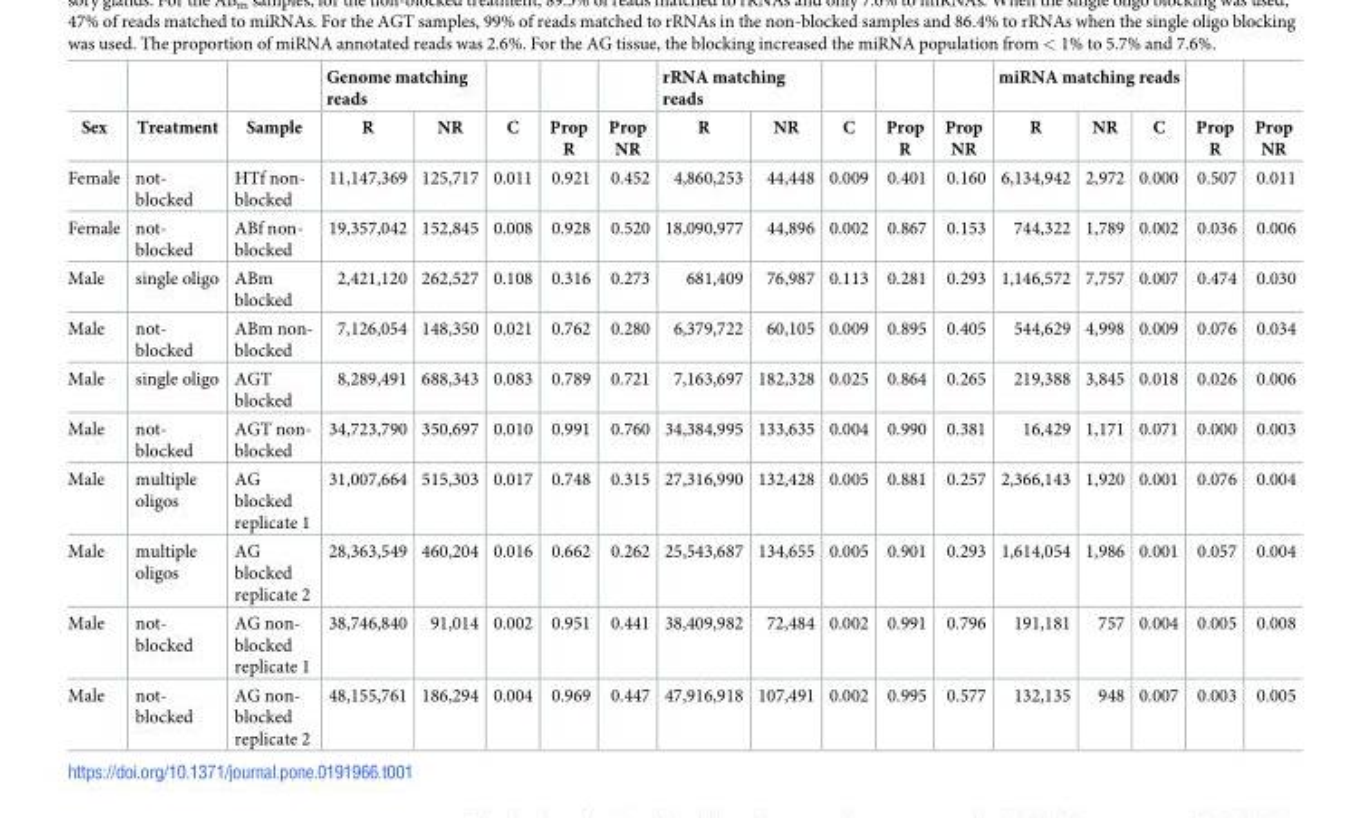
<table><thead><tr><td rowspan="2">Sex</td><td rowspan="2">Treatment</td><td rowspan="2">Sample</td><td colspan="2">Genome matching reads</td><td rowspan="2">C</td><td rowspan="2">Prop R</td><td rowspan="2">Prop NR</td><td colspan="2">rRNA matching reads</td><td rowspan="2">C</td><td rowspan="2">Prop R</td><td rowspan="2">Prop NR</td><td colspan="3">miRNA matching reads</td><td rowspan="2">Prop R</td><td rowspan="2">Prop NR</td></tr><tr><td>R</td><td>NR</td><td>R</td><td>NR</td><td>R</td><td>NR</td><td>C</td></tr></thead><tbody><tr><td>Female</td><td>not- blocked</td><td>HTf non- blocked</td><td>11,147,369</td><td>125,717</td><td>0.011</td><td>0.921</td><td>0.452</td><td>4,860,253</td><td>44,448</td><td>0.009</td><td>0.401</td><td>0.160</td><td>6,134,942</td><td>2,972</td><td>0.000</td><td>0.507</td><td>0.011</td></tr><tr><td>Female</td><td>not- blocked</td><td>ABf non- blocked</td><td>19,357,042</td><td>152,845</td><td>0.008</td><td>0.928</td><td>0.520</td><td>18,090,977</td><td>44,896</td><td>0.002</td><td>0.867</td><td>0.153</td><td>744,322</td><td>1,789</td><td>0.002</td><td>0.036</td><td>0.006</td></tr><tr><td>Male</td><td>single oligo</td><td>ABm blocked</td><td>2,421,120</td><td>262,527</td><td>0.108</td><td>0.316</td><td>0.273</td><td>681,409</td><td>76,987</td><td>0.113</td><td>0.281</td><td>0.293</td><td>1,146,572</td><td>7,757</td><td>0.007</td><td>0.474</td><td>0.030</td></tr><tr><td>Male</td><td>not- blocked</td><td>ABm non- blocked</td><td>7,126,054</td><td>148,350</td><td>0.021</td><td>0.762</td><td>0.280</td><td>6,379,722</td><td>60,105</td><td>0.009</td><td>0.895</td><td>0.405</td><td>544,629</td><td>4,998</td><td>0.009</td><td>0.076</td><td>0.034</td></tr><tr><td>Male</td><td>single oligo</td><td>AGT blocked</td><td>8,289,491</td><td>688,343</td><td>0.083</td><td>0.789</td><td>0.721</td><td>7,163,697</td><td>182,328</td><td>0.025</td><td>0.864</td><td>0.265</td><td>219,388</td><td>3,845</td><td>0.018</td><td>0.026</td><td>0.006</td></tr><tr><td>Male</td><td>not- blocked</td><td>AGT non- blocked</td><td>34,723,790</td><td>350,697</td><td>0.010</td><td>0.991</td><td>0.760</td><td>34,384,995</td><td>133,635</td><td>0.004</td><td>0.990</td><td>0.381</td><td>16,429</td><td>1,171</td><td>0.071</td><td>0.000</td><td>0.003</td></tr><tr><td>Male</td><td>multiple oligos</td><td>AG blocked replicate 1</td><td>31,007,664</td><td>515,303</td><td>0.017</td><td>0.748</td><td>0.315</td><td>27,316,990</td><td>132,428</td><td>0.005</td><td>0.881</td><td>0.257</td><td>2,366,143</td><td>1,920</td><td>0.001</td><td>0.076</td><td>0.004</td></tr><tr><td>Male</td><td>multiple oligos</td><td>AG blocked replicate 2</td><td>28,363,549</td><td>460,204</td><td>0.016</td><td>0.662</td><td>0.262</td><td>25,543,687</td><td>134,655</td><td>0.005</td><td>0.901</td><td>0.293</td><td>1,614,054</td><td>1,986</td><td>0.001</td><td>0.057</td><td>0.004</td></tr><tr><td>Male</td><td>not- blocked</td><td>AG non- blocked replicate 1</td><td>38,746,840</td><td>91,014</td><td>0.002</td><td>0.951</td><td>0.441</td><td>38,409,982</td><td>72,484</td><td>0.002</td><td>0.991</td><td>0.796</td><td>191,181</td><td>757</td><td>0.004</td><td>0.005</td><td>0.008</td></tr><tr><td>Male</td><td>not- blocked</td><td>AG non- blocked replicate 2</td><td>48,155,761</td><td>186,294</td><td>0.004</td><td>0.969</td><td>0.447</td><td>47,916,918</td><td>107,491</td><td>0.002</td><td>0.995</td><td>0.577</td><td>132,135</td><td>948</td><td>0.007</td><td>0.003</td><td>0.005</td></tr></tbody></table>